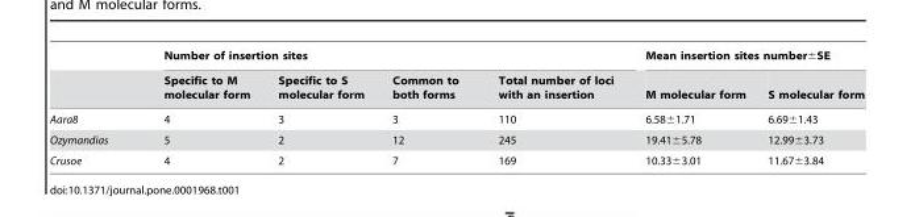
<table><thead><tr><td rowspan="2"></td><td colspan="4">Number of insertion sites</td><td colspan="2">Mean insertion sites number±SE</td></tr><tr><td>Specific to M molecular form</td><td>Specific to S molecular form</td><td>Common to both forms</td><td>Total number of loci with an insertion</td><td>M molecular form</td><td>S molecular form</td></tr></thead><tbody><tr><td>Aara8</td><td>4</td><td>3</td><td>3</td><td>110</td><td>6.58±1.71</td><td>6.69±1.43</td></tr><tr><td>Ozymandias</td><td>5</td><td>2</td><td>12</td><td>245</td><td>19.41±5.78</td><td>12.99±3.73</td></tr><tr><td>Crusoe</td><td>4</td><td>2</td><td>7</td><td>169</td><td>10.33±3.01</td><td>11.67±3.84</td></tr></tbody></table>